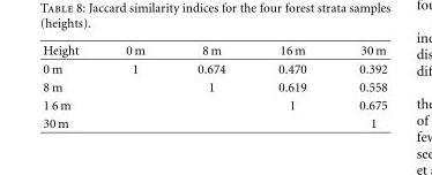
<table><thead><tr><td>Height</td><td>0 m</td><td>8 m</td><td>16 m</td><td>30 m</td></tr></thead><tbody><tr><td>0 m</td><td>1</td><td>0.674</td><td>0.470</td><td>0.392</td></tr><tr><td>8 m</td><td></td><td>1</td><td>0.619</td><td>0.558</td></tr><tr><td>1 6 m</td><td></td><td></td><td>1</td><td>0.675</td></tr><tr><td>30 m</td><td></td><td></td><td></td><td>1</td></tr></tbody></table>